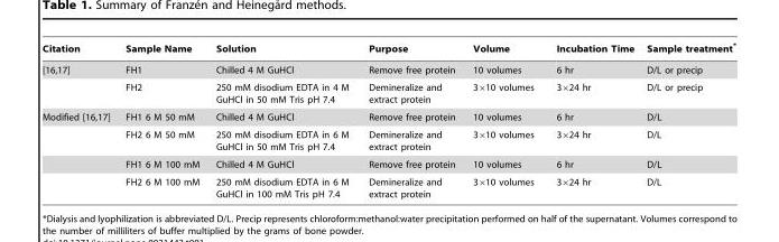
<table><thead><tr><td>Citation</td><td>Sample Name</td><td>Solution</td><td>Purpose</td><td>Volume</td><td>Incubation Time</td><td>Sample treatment*</td></tr></thead><tbody><tr><td rowspan="2">[16,17]</td><td>FH1</td><td>Chilled 4 M GuHCl</td><td>Remove free protein</td><td>10 volumes</td><td>6 hr</td><td>D/L or precip</td></tr><tr><td>FH2</td><td>250 mM disodium EDTA in 4 M GuHCl in 50 mM Tris pH 7.4</td><td>Demineralize and extract protein</td><td>3×10 volumes</td><td>3×24 hr</td><td>D/L or precip</td></tr><tr><td rowspan="4">Modified [16,17]</td><td>FH1 6 M 50 mM</td><td>Chilled 4 M GuHCl</td><td>Remove free protein</td><td>10 volumes</td><td>6 hr</td><td>D/L</td></tr><tr><td>FH2 6 M 50 mM</td><td>250 mM disodium EDTA in 6 M GuHCl in 50 mM Tris pH 7.4</td><td>Demineralize and extract protein</td><td>3×10 volumes</td><td>3×24 hr</td><td>D/L</td></tr><tr><td>FH1 6 M 100 mM</td><td>Chilled 4 M GuHCl</td><td>Remove free protein</td><td>10 volumes</td><td>6 hr</td><td>D/L</td></tr><tr><td>FH2 6 M 100 mM</td><td>250 mM disodium EDTA in 6 M GuHCl in 100 mM Tris pH 7.4</td><td>Demineralize and extract protein</td><td>3×10 volumes</td><td>3×24 hr</td><td>D/L</td></tr></tbody></table>